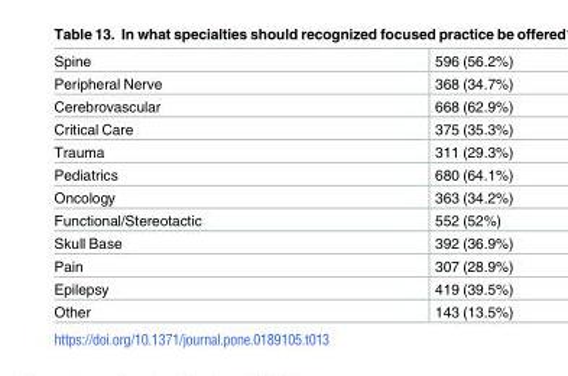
<table><tbody><tr><td>Spine</td><td>596 (56.2%)</td></tr><tr><td>Peripheral Nerve</td><td>368 (34.7%)</td></tr><tr><td>Cerebrovascular</td><td>668 (62.9%)</td></tr><tr><td>Critical Care</td><td>375 (35.3%)</td></tr><tr><td>Trauma</td><td>311 (29.3%)</td></tr><tr><td>Pediatrics</td><td>680 (64.1%)</td></tr><tr><td>Oncology</td><td>363 (34.2%)</td></tr><tr><td>Functional/Stereotactic</td><td>552 (52%)</td></tr><tr><td>Skull Base</td><td>392 (36.9%)</td></tr><tr><td>Pain</td><td>307 (28.9%)</td></tr><tr><td>Epilepsy</td><td>419 (39.5%)</td></tr><tr><td>Other</td><td>143 (13.5%)</td></tr></tbody></table>